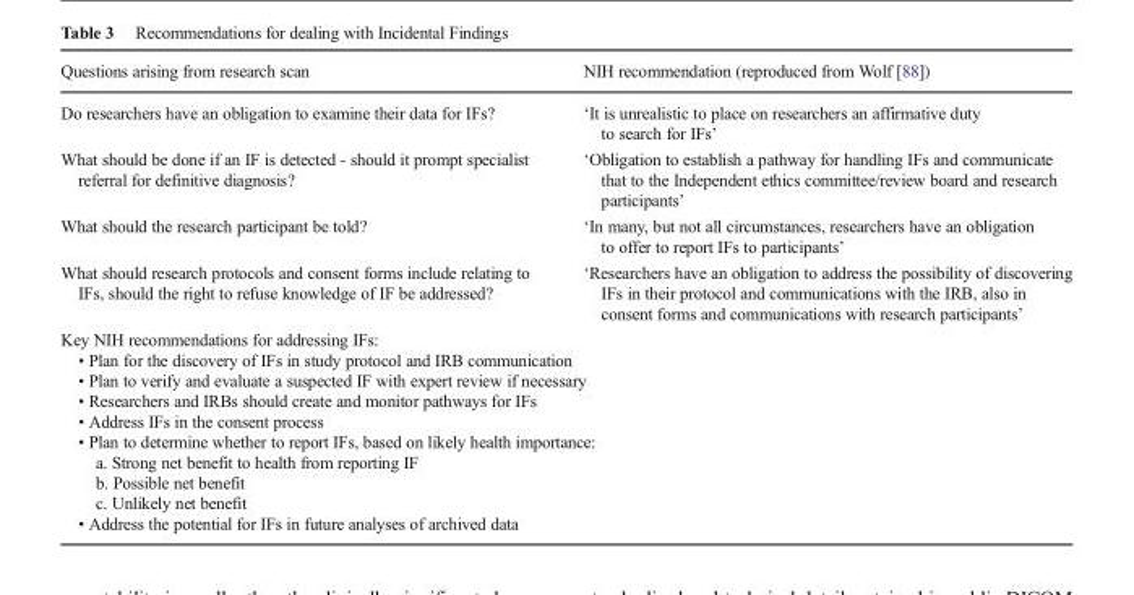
<table><thead><tr><td>Questions arising from research scan</td><td>NIH recommendation (reproduced from Wolf [88])</td></tr></thead><tbody><tr><td>Do researchers have an obligation to examine their data for IFs?</td><td>‘It is unrealistic to place on researchers an affirmative duty to search for IFs’</td></tr><tr><td>What should be done if an IF is detected - should it prompt specialist referral for definitive diagnosis?</td><td>‘Obligation to establish a pathway for handling IFs and communicate that to the Independent ethics committee/review board and research participants’</td></tr><tr><td>What should the research participant be told?</td><td>‘In many, but not all circumstances, researchers have an obligation to offer to report IFs to participants’</td></tr><tr><td>What should research protocols and consent forms include relating to IFs, should the right to refuse knowledge of IF be addressed?</td><td>‘Researchers have an obligation to address the possibility of discovering IFs in their protocol and communications with the IRB, also in consent forms and communications with research participants’</td></tr><tr><td colspan="2">Key NIH recommendations for addressing IFs: • Plan for the discovery of IFs in study protocol and IRB communication • Plan to verify and evaluate a suspected IF with expert review if necessary • Researchers and IRBs should create and monitor pathways for IFs • Address IFs in the consent process • Plan to determine whether to report IFs, based on likely health importance: a. Strong net benefit to health from reporting IF b. Possible net benefit c. Unlikely net benefit • Address the potential for IFs in future analyses of archived data</td></tr></tbody></table>